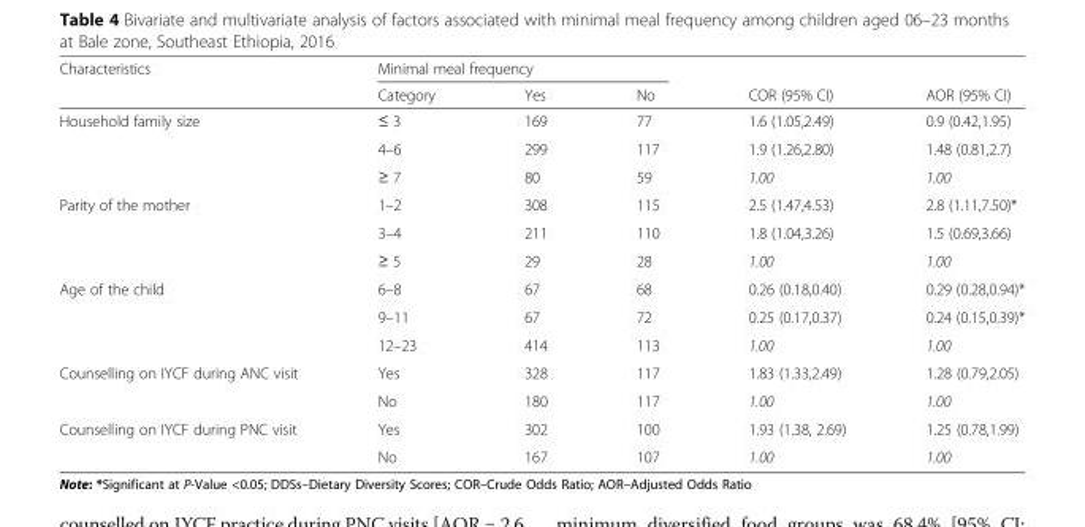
<table><thead><tr><td rowspan="2">Characteristics</td><td colspan="3">Minimal meal frequency</td><td rowspan="2">COR (95% CI)</td><td rowspan="2">AOR (95% CI)</td></tr><tr><td>Category</td><td>Yes</td><td>No</td></tr></thead><tbody><tr><td rowspan="3">Household family size</td><td>≤ 3</td><td>169</td><td>77</td><td>1.6 (1.05,2.49)</td><td>0.9 (0.42,1.95)</td></tr><tr><td>4–6</td><td>299</td><td>117</td><td>1.9 (1.26,2.80)</td><td>1.48 (0.81,2.7)</td></tr><tr><td>≥ 7</td><td>80</td><td>59</td><td>1.00</td><td>1.00</td></tr><tr><td rowspan="3">Parity of the mother</td><td>1–2</td><td>308</td><td>115</td><td>2.5 (1.47,4.53)</td><td>2.8 (1.11,7.50)*</td></tr><tr><td>3–4</td><td>211</td><td>110</td><td>1.8 (1.04,3.26)</td><td>1.5 (0.69,3.66)</td></tr><tr><td>≥ 5</td><td>29</td><td>28</td><td>1.00</td><td>1.00</td></tr><tr><td rowspan="3">Age of the child</td><td>6–8</td><td>67</td><td>68</td><td>0.26 (0.18,0.40)</td><td>0.29 (0.28,0.94)*</td></tr><tr><td>9–11</td><td>67</td><td>72</td><td>0.25 (0.17,0.37)</td><td>0.24 (0.15,0.39)*</td></tr><tr><td>12–23</td><td>414</td><td>113</td><td>1.00</td><td>1.00</td></tr><tr><td rowspan="2">Counselling on IYCF during ANC visit</td><td>Yes</td><td>328</td><td>117</td><td>1.83 (1.33,2.49)</td><td>1.28 (0.79,2.05)</td></tr><tr><td>No</td><td>180</td><td>117</td><td>1.00</td><td>1.00</td></tr><tr><td rowspan="2">Counselling on IYCF during PNC visit</td><td>Yes</td><td>302</td><td>100</td><td>1.93 (1.38, 2.69)</td><td>1.25 (0.78,1.99)</td></tr><tr><td>No</td><td>167</td><td>107</td><td>1.00</td><td>1.00</td></tr></tbody></table>